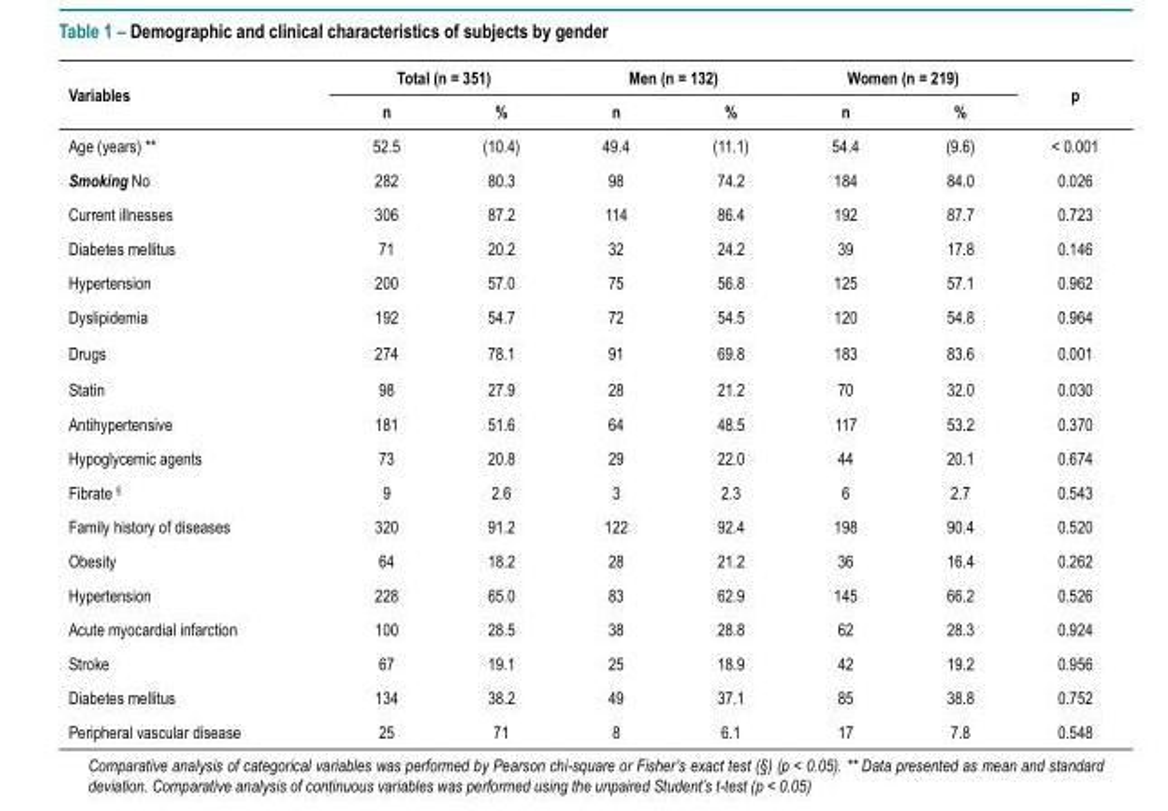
<table><thead><tr><td rowspan="2">Variables</td><td colspan="2">Total (n = 351)</td><td colspan="2">Men (n = 132)</td><td colspan="2">Women (n = 219)</td><td rowspan="2">p</td></tr><tr><td>n</td><td>%</td><td>n</td><td>%</td><td>n</td><td>%</td></tr></thead><tbody><tr><td>Age (years) **</td><td>52.5</td><td>(10.4)</td><td>49.4</td><td>(11.1)</td><td>54.4</td><td>(9.6)</td><td>&lt; 0.001</td></tr><tr><td>Smoking No</td><td>282</td><td>80.3</td><td>98</td><td>74.2</td><td>184</td><td>84.0</td><td>0.026</td></tr><tr><td>Current illnesses</td><td>306</td><td>87.2</td><td>114</td><td>86.4</td><td>192</td><td>87.7</td><td>0.723</td></tr><tr><td>Diabetes mellitus</td><td>71</td><td>20.2</td><td>32</td><td>24.2</td><td>39</td><td>17.8</td><td>0.146</td></tr><tr><td>Hypertension</td><td>200</td><td>57.0</td><td>75</td><td>56.8</td><td>125</td><td>57.1</td><td>0.962</td></tr><tr><td>Dyslipidemia</td><td>192</td><td>54.7</td><td>72</td><td>54.5</td><td>120</td><td>54.8</td><td>0.964</td></tr><tr><td>Drugs</td><td>274</td><td>78.1</td><td>91</td><td>69.8</td><td>183</td><td>83.6</td><td>0.001</td></tr><tr><td>Statin</td><td>98</td><td>27.9</td><td>28</td><td>21.2</td><td>70</td><td>32.0</td><td>0.030</td></tr><tr><td>Antihypertensive</td><td>181</td><td>51.6</td><td>64</td><td>48.5</td><td>117</td><td>53.2</td><td>0.370</td></tr><tr><td>Hypoglycemic agents</td><td>73</td><td>20.8</td><td>29</td><td>22.0</td><td>44</td><td>20.1</td><td>0.674</td></tr><tr><td>Fibrate <sup>§</sup></td><td>9</td><td>2.6</td><td>3</td><td>2.3</td><td>6</td><td>2.7</td><td>0.543</td></tr><tr><td>Family history of diseases</td><td>320</td><td>91.2</td><td>122</td><td>92.4</td><td>198</td><td>90.4</td><td>0.520</td></tr><tr><td>Obesity</td><td>64</td><td>18.2</td><td>28</td><td>21.2</td><td>36</td><td>16.4</td><td>0.262</td></tr><tr><td>Hypertension</td><td>228</td><td>65.0</td><td>83</td><td>62.9</td><td>145</td><td>66.2</td><td>0.526</td></tr><tr><td>Acute myocardial infarction</td><td>100</td><td>28.5</td><td>38</td><td>28.8</td><td>62</td><td>28.3</td><td>0.924</td></tr><tr><td>Stroke</td><td>67</td><td>19.1</td><td>25</td><td>18.9</td><td>42</td><td>19.2</td><td>0.956</td></tr><tr><td>Diabetes mellitus</td><td>134</td><td>38.2</td><td>49</td><td>37.1</td><td>85</td><td>38.8</td><td>0.752</td></tr><tr><td>Peripheral vascular disease</td><td>25</td><td>71</td><td>8</td><td>6.1</td><td>17</td><td>7.8</td><td>0.548</td></tr></tbody></table>